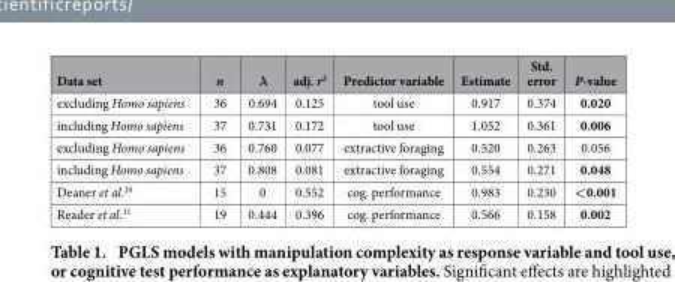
<table><thead><tr><td>Data set</td><td>n</td><td>λ</td><td>adj. r<sup>2</sup></td><td>Predictor variable</td><td>Estimate</td><td>Std. error</td><td>P-value</td></tr></thead><tbody><tr><td>excluding Homo sapiens</td><td>36</td><td>0.694</td><td>0.125</td><td>tool use</td><td>0.917</td><td>0.374</td><td>0.020</td></tr><tr><td>including Homo sapiens</td><td>37</td><td>0.731</td><td>0.172</td><td>tool use</td><td>1.052</td><td>0.361</td><td>0.006</td></tr><tr><td>excluding Homo sapiens</td><td>36</td><td>0.760</td><td>0.077</td><td>extractive foraging</td><td>0.520</td><td>0.263</td><td>0.056</td></tr><tr><td>including Homo sapiens</td><td>37</td><td>0.808</td><td>0.081</td><td>extractive foraging</td><td>0.554</td><td>0.271</td><td>0.048</td></tr><tr><td>Deaner et al.<sup>20</sup></td><td>15</td><td>0</td><td>0.552</td><td>cog. performance</td><td>0.983</td><td>0.230</td><td>&lt;0.001</td></tr><tr><td>Reader et al.<sup>11</sup></td><td>19</td><td>0.444</td><td>0.396</td><td>cog. performance</td><td>0.566</td><td>0.158</td><td>0.002</td></tr></tbody></table>